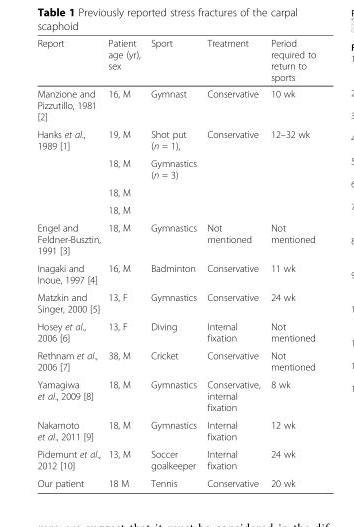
<table><thead><tr><td>Report</td><td>Patient age (yr), sex</td><td>Sport</td><td>Treatment</td><td>Period required to return to sports</td></tr></thead><tbody><tr><td>Manzione and Pizzutillo, 1981 [2]</td><td>16, M</td><td>Gymnast</td><td>Conservative</td><td>10 wk</td></tr><tr><td rowspan="4">Hanks et al., 1989 [1]</td><td>19, M</td><td>Shot put (n = 1),</td><td rowspan="4">Conservative</td><td rowspan="4">12–32 wk</td></tr><tr><td>18, M</td><td>Gymnastics (n = 3)</td></tr><tr><td>18, M</td><td></td></tr><tr><td>18, M</td><td></td></tr><tr><td>Engel and Feldner-Busztin, 1991 [3]</td><td>18, M</td><td>Gymnastics</td><td>Not mentioned</td><td>Not mentioned</td></tr><tr><td>Inagaki and Inoue, 1997 [4]</td><td>16, M</td><td>Badminton</td><td>Conservative</td><td>11 wk</td></tr><tr><td>Matzkin and Singer, 2000 [5]</td><td>13, F</td><td>Gymnastics</td><td>Conservative</td><td>24 wk</td></tr><tr><td>Hosey et al., 2006 [6]</td><td>13, F</td><td>Diving</td><td>Internal fixation</td><td>Not mentioned</td></tr><tr><td>Rethnam et al., 2006 [7]</td><td>38, M</td><td>Cricket</td><td>Conservative</td><td>Not mentioned</td></tr><tr><td>Yamagiwa et al., 2009 [8]</td><td>18, M</td><td>Gymnastics</td><td>Conservative, internal fixation</td><td>8 wk</td></tr><tr><td>Nakamoto et al., 2011 [9]</td><td>18, M</td><td>Gymnastics</td><td>Internal fixation</td><td>12 wk</td></tr><tr><td>Pidemunt et al., 2012 [10]</td><td>13, M</td><td>Soccer goalkeeper</td><td>Internal fixation</td><td>24 wk</td></tr><tr><td>Our patient</td><td>18 M</td><td>Tennis</td><td>Conservative</td><td>20 wk</td></tr></tbody></table>